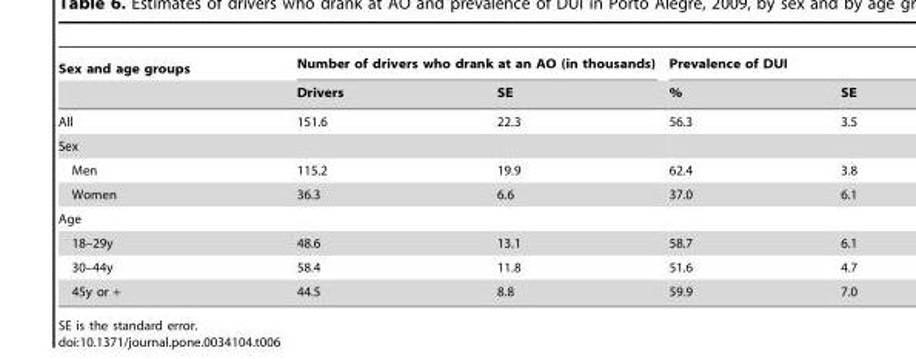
<table><thead><tr><td rowspan="2">Sex and age groups</td><td colspan="2">Number of drivers who drank at an AO (in thousands)</td><td colspan="2">Prevalence of DUI</td></tr><tr><td>Drivers</td><td>SE</td><td>%</td><td>SE</td></tr></thead><tbody><tr><td>All</td><td>151.6</td><td>22.3</td><td>56.3</td><td>3.5</td></tr><tr><td colspan="5">Sex</td></tr><tr><td>Men</td><td>115.2</td><td>19.9</td><td>62.4</td><td>3.8</td></tr><tr><td>Women</td><td>36.3</td><td>6.6</td><td>37.0</td><td>6.1</td></tr><tr><td colspan="5">Age</td></tr><tr><td>18–29y</td><td>48.6</td><td>13.1</td><td>58.7</td><td>6.1</td></tr><tr><td>30–44y</td><td>58.4</td><td>11.8</td><td>51.6</td><td>4.7</td></tr><tr><td>45y or +</td><td>44.5</td><td>8.8</td><td>59.9</td><td>7.0</td></tr></tbody></table>